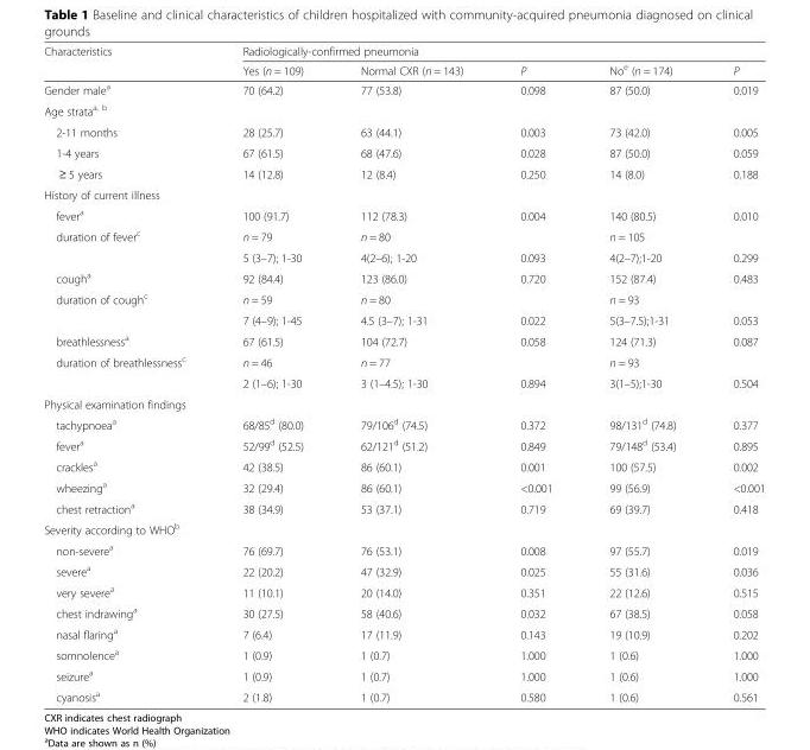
<table><thead><tr><td rowspan="2">Characteristics</td><td colspan="5">Radiologically-confirmed pneumonia</td></tr><tr><td>Yes (n = 109)</td><td>Normal CXR (n = 143)</td><td>P</td><td>No<sup>e</sup> (n = 174)</td><td>P</td></tr></thead><tbody><tr><td>Gender male<sup>a</sup></td><td>70 (64.2)</td><td>77 (53.8)</td><td>0.098</td><td>87 (50.0)</td><td>0.019</td></tr><tr><td colspan="6">Age strata<sup>a, b</sup></td></tr><tr><td>2-11 months</td><td>28 (25.7)</td><td>63 (44.1)</td><td>0.003</td><td>73 (42.0)</td><td>0.005</td></tr><tr><td>1-4 years</td><td>67 (61.5)</td><td>68 (47.6)</td><td>0.028</td><td>87 (50.0)</td><td>0.059</td></tr><tr><td>≥ 5 years</td><td>14 (12.8)</td><td>12 (8.4)</td><td>0.250</td><td>14 (8.0)</td><td>0.188</td></tr><tr><td colspan="6">History of current illness</td></tr><tr><td>fever<sup>a</sup></td><td>100 (91.7)</td><td>112 (78.3)</td><td>0.004</td><td>140 (80.5)</td><td>0.010</td></tr><tr><td rowspan="2">duration of fever<sup>c</sup></td><td>n = 79</td><td>n = 80</td><td></td><td>n = 105</td><td></td></tr><tr><td>5 (3–7); 1-30</td><td>4(2–6); 1-20</td><td>0.093</td><td>4(2–7);1-20</td><td>0.299</td></tr><tr><td>cough<sup>a</sup></td><td>92 (84.4)</td><td>123 (86.0)</td><td>0.720</td><td>152 (87.4)</td><td>0.483</td></tr><tr><td rowspan="2">duration of cough<sup>c</sup></td><td>n = 59</td><td>n = 80</td><td></td><td>n = 93</td><td></td></tr><tr><td>7 (4–9); 1-45</td><td>4.5 (3–7); 1-31</td><td>0.022</td><td>5(3–7.5);1-31</td><td>0.053</td></tr><tr><td>breathlessness<sup>a</sup></td><td>67 (61.5)</td><td>104 (72.7)</td><td>0.058</td><td>124 (71.3)</td><td>0.087</td></tr><tr><td rowspan="2">duration of breathlessness<sup>c</sup></td><td>n = 46</td><td>n = 77</td><td></td><td>n = 93</td><td></td></tr><tr><td>2 (1–6); 1-30</td><td>3 (1–4.5); 1-30</td><td>0.894</td><td>3(1–5);1-30</td><td>0.504</td></tr><tr><td colspan="6">Physical examination findings</td></tr><tr><td>tachypnoea<sup>a</sup></td><td>68/85<sup>d</sup> (80.0)</td><td>79/106<sup>d</sup> (74.5)</td><td>0.372</td><td>98/131<sup>d</sup> (74.8)</td><td>0.377</td></tr><tr><td>fever<sup>a</sup></td><td>52/99<sup>d</sup> (52.5)</td><td>62/121<sup>d</sup> (51.2)</td><td>0.849</td><td>79/148<sup>d</sup> (53.4)</td><td>0.895</td></tr><tr><td>crackles<sup>a</sup></td><td>42 (38.5)</td><td>86 (60.1)</td><td>0.001</td><td>100 (57.5)</td><td>0.002</td></tr><tr><td>wheezing<sup>a</sup></td><td>32 (29.4)</td><td>86 (60.1)</td><td>&lt;0.001</td><td>99 (56.9)</td><td>&lt;0.001</td></tr><tr><td>chest retraction<sup>a</sup></td><td>38 (34.9)</td><td>53 (37.1)</td><td>0.719</td><td>69 (39.7)</td><td>0.418</td></tr><tr><td colspan="6">Severity according to WHO<sup>b</sup></td></tr><tr><td>non-severe<sup>a</sup></td><td>76 (69.7)</td><td>76 (53.1)</td><td>0.008</td><td>97 (55.7)</td><td>0.019</td></tr><tr><td>severe<sup>a</sup></td><td>22 (20.2)</td><td>47 (32.9)</td><td>0.025</td><td>55 (31.6)</td><td>0.036</td></tr><tr><td>very severe<sup>a</sup></td><td>11 (10.1)</td><td>20 (14.0)</td><td>0.351</td><td>22 (12.6)</td><td>0.515</td></tr><tr><td>chest indrawing<sup>a</sup></td><td>30 (27.5)</td><td>58 (40.6)</td><td>0.032</td><td>67 (38.5)</td><td>0.058</td></tr><tr><td>nasal flaring<sup>a</sup></td><td>7 (6.4)</td><td>17 (11.9)</td><td>0.143</td><td>19 (10.9)</td><td>0.202</td></tr><tr><td>somnolence<sup>a</sup></td><td>1 (0.9)</td><td>1 (0.7)</td><td>1.000</td><td>1 (0.6)</td><td>1.000</td></tr><tr><td>seizure<sup>a</sup></td><td>1 (0.9)</td><td>1 (0.7)</td><td>1.000</td><td>1 (0.6)</td><td>1.000</td></tr><tr><td>cyanosis<sup>a</sup></td><td>2 (1.8)</td><td>1 (0.7)</td><td>0.580</td><td>1 (0.6)</td><td>0.561</td></tr></tbody></table>